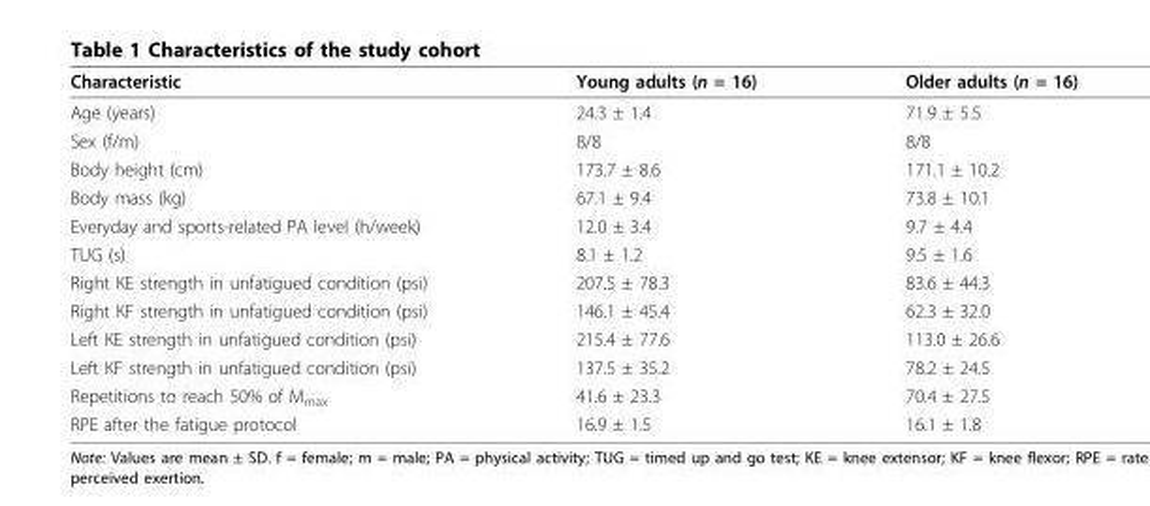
<table><thead><tr><td>Characteristic</td><td>Young adults (n = 16)</td><td>Older adults (n = 16)</td></tr></thead><tbody><tr><td>Age (years)</td><td>24.3 ± 1.4</td><td>71.9 ± 5.5</td></tr><tr><td>Sex (f/m)</td><td>8/8</td><td>8/8</td></tr><tr><td>Body height (cm)</td><td>173.7 ± 8.6</td><td>171.1 ± 10.2</td></tr><tr><td>Body mass (kg)</td><td>67.1 ± 9.4</td><td>73.8 ± 10.1</td></tr><tr><td>Everyday and sports-related PA level (h/week)</td><td>12.0 ± 3.4</td><td>9.7 ± 4.4</td></tr><tr><td>TUG (s)</td><td>8.1 ± 1.2</td><td>9.5 ± 1.6</td></tr><tr><td>Right KE strength in unfatigued condition (psi)</td><td>207.5 ± 78.3</td><td>83.6 ± 44.3</td></tr><tr><td>Right KF strength in unfatigued condition (psi)</td><td>146.1 ± 45.4</td><td>62.3 ± 32.0</td></tr><tr><td>Left KE strength in unfatigued condition (psi)</td><td>215.4 ± 77.6</td><td>113.0 ± 26.6</td></tr><tr><td>Left KF strength in unfatigued condition (psi)</td><td>137.5 ± 35.2</td><td>78.2 ± 24.5</td></tr><tr><td>Repetitions to reach 50% of M<sub>max</sub></td><td>41.6 ± 23.3</td><td>70.4 ± 27.5</td></tr><tr><td>RPE after the fatigue protocol</td><td>16.9 ± 1.5</td><td>16.1 ± 1.8</td></tr></tbody></table>